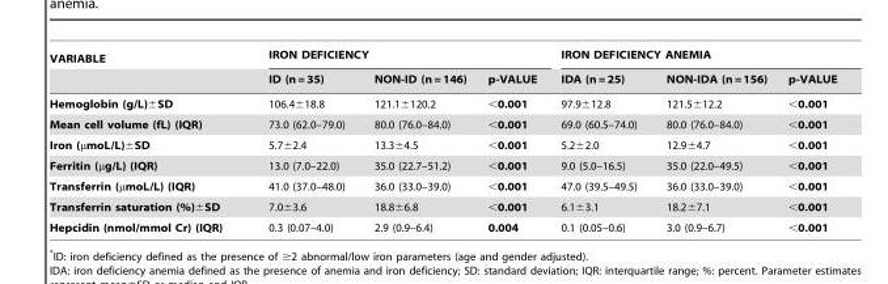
<table><thead><tr><td rowspan="2">VARIABLE</td><td colspan="3">IRON DEFICIENCY</td><td colspan="3">IRON DEFICIENCY ANEMIA</td></tr><tr><td>ID (n = 35)</td><td>NON-ID (n = 146)</td><td>p-VALUE</td><td>IDA (n = 25)</td><td>NON-IDA (n = 156)</td><td>p-VALUE</td></tr></thead><tbody><tr><td>Hemoglobin (g/L)±SD</td><td>106.4±18.8</td><td>121.1±120.2</td><td>&lt;0.001</td><td>97.9±12.8</td><td>121.5±12.2</td><td>&lt;0.001</td></tr><tr><td>Mean cell volume (fL) (IQR)</td><td>73.0 (62.0–79.0)</td><td>80.0 (76.0–84.0)</td><td>&lt;0.001</td><td>69.0 (60.5–74.0)</td><td>80.0 (76.0–84.0)</td><td>&lt;0.001</td></tr><tr><td>Iron (μmoL/L)±SD</td><td>5.7±2.4</td><td>13.3±4.5</td><td>&lt;0.001</td><td>5.2±2.0</td><td>12.9±4.7</td><td>&lt;0.001</td></tr><tr><td>Ferritin (μg/L) (IQR)</td><td>13.0 (7.0–22.0)</td><td>35.0 (22.7–51.2)</td><td>&lt;0.001</td><td>9.0 (5.0–16.5)</td><td>35.0 (22.0–49.5)</td><td>&lt;0.001</td></tr><tr><td>Transferrin (μmoL/L) (IQR)</td><td>41.0 (37.0–48.0)</td><td>36.0 (33.0–39.0)</td><td>&lt;0.001</td><td>47.0 (39.5–49.5)</td><td>36.0 (33.0–39.0)</td><td>&lt;0.001</td></tr><tr><td>Transferrin saturation (%)±SD</td><td>7.0±3.6</td><td>18.8±6.8</td><td>&lt;0.001</td><td>6.1±3.1</td><td>18.2±7.1</td><td>&lt;0.001</td></tr><tr><td>Hepcidin (nmol/mmol Cr) (IQR)</td><td>0.3 (0.07–4.0)</td><td>2.9 (0.9–6.4)</td><td>0.004</td><td>0.1 (0.05–0.6)</td><td>3.0 (0.9–6.7)</td><td>&lt;0.001</td></tr></tbody></table>